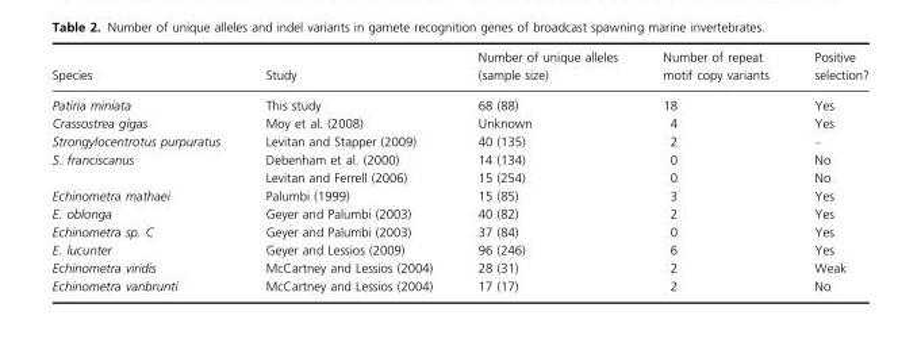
<table><thead><tr><td>Species</td><td>Study</td><td>Number of unique alleles (sample size)</td><td>Number of repeat motif copy variants</td><td>Positive selection?</td></tr></thead><tbody><tr><td>Patiria miniata</td><td>This study</td><td>68 (88)</td><td>18</td><td>Yes</td></tr><tr><td>Crassostrea gigas</td><td>Moy et al. (2008)</td><td>Unknown</td><td>4</td><td>Yes</td></tr><tr><td>Strongylocentrotus purpuratus</td><td>Levitan and Stapper (2009)</td><td>40 (135)</td><td>2</td><td>–</td></tr><tr><td rowspan="2">S. franciscanus</td><td>Debenham et al. (2000)</td><td>14 (134)</td><td>0</td><td>No</td></tr><tr><td>Levitan and Ferrell (2006)</td><td>15 (254)</td><td>0</td><td>No</td></tr><tr><td>Echinometra mathaei</td><td>Palumbi (1999)</td><td>15 (85)</td><td>3</td><td>Yes</td></tr><tr><td>E. oblonga</td><td>Geyer and Palumbi (2003)</td><td>40 (82)</td><td>2</td><td>Yes</td></tr><tr><td>Echinometra sp. C</td><td>Geyer and Palumbi (2003)</td><td>37 (84)</td><td>0</td><td>Yes</td></tr><tr><td>E. lucunter</td><td>Geyer and Lessios (2009)</td><td>96 (246)</td><td>6</td><td>Yes</td></tr><tr><td>Echinometra viridis</td><td>McCartney and Lessios (2004)</td><td>28 (31)</td><td>2</td><td>Weak</td></tr><tr><td>Echinometra vanbrunti</td><td>McCartney and Lessios (2004)</td><td>17 (17)</td><td>2</td><td>No</td></tr></tbody></table>